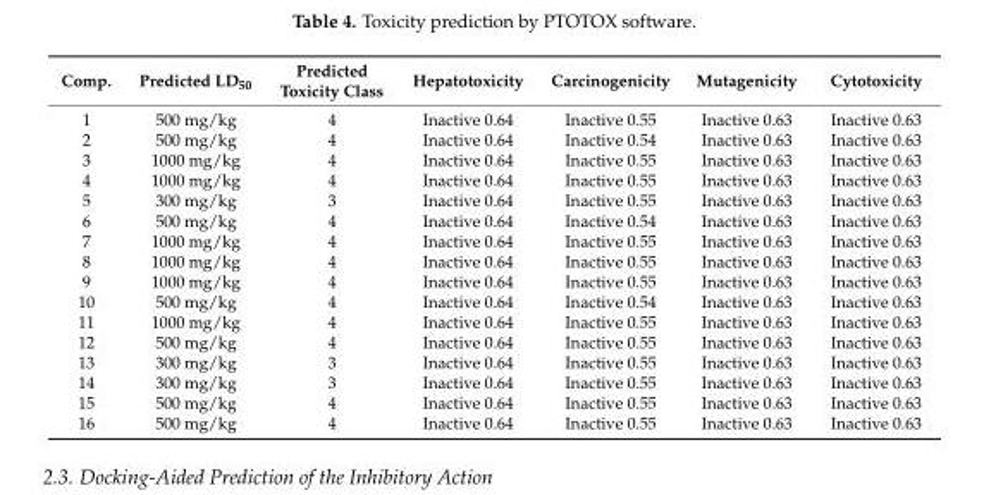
<table><thead><tr><td>Comp.</td><td>Predicted LD50</td><td>Predicted Toxicity Class</td><td>Hepatotoxicity</td><td>Carcinogenicity</td><td>Mutagenicity</td><td>Cytotoxicity</td></tr></thead><tbody><tr><td>1</td><td>500 mg/kg</td><td>4</td><td>Inactive 0.64</td><td>Inactive 0.55</td><td>Inactive 0.63</td><td>Inactive 0.63</td></tr><tr><td>2</td><td>500 mg/kg</td><td>4</td><td>Inactive 0.64</td><td>Inactive 0.54</td><td>Inactive 0.63</td><td>Inactive 0.63</td></tr><tr><td>3</td><td>1000 mg/kg</td><td>4</td><td>Inactive 0.64</td><td>Inactive 0.55</td><td>Inactive 0.63</td><td>Inactive 0.63</td></tr><tr><td>4</td><td>1000 mg/kg</td><td>4</td><td>Inactive 0.64</td><td>Inactive 0.55</td><td>Inactive 0.63</td><td>Inactive 0.63</td></tr><tr><td>5</td><td>300 mg/kg</td><td>3</td><td>Inactive 0.64</td><td>Inactive 0.55</td><td>Inactive 0.63</td><td>Inactive 0.63</td></tr><tr><td>6</td><td>500 mg/kg</td><td>4</td><td>Inactive 0.64</td><td>Inactive 0.54</td><td>Inactive 0.63</td><td>Inactive 0.63</td></tr><tr><td>7</td><td>1000 mg/kg</td><td>4</td><td>Inactive 0.64</td><td>Inactive 0.55</td><td>Inactive 0.63</td><td>Inactive 0.63</td></tr><tr><td>8</td><td>1000 mg/kg</td><td>4</td><td>Inactive 0.64</td><td>Inactive 0.55</td><td>Inactive 0.63</td><td>Inactive 0.63</td></tr><tr><td>9</td><td>1000 mg/kg</td><td>4</td><td>Inactive 0.64</td><td>Inactive 0.55</td><td>Inactive 0.63</td><td>Inactive 0.63</td></tr><tr><td>10</td><td>500 mg/kg</td><td>4</td><td>Inactive 0.64</td><td>Inactive 0.54</td><td>Inactive 0.63</td><td>Inactive 0.63</td></tr><tr><td>11</td><td>1000 mg/kg</td><td>4</td><td>Inactive 0.64</td><td>Inactive 0.55</td><td>Inactive 0.63</td><td>Inactive 0.63</td></tr><tr><td>12</td><td>500 mg/kg</td><td>4</td><td>Inactive 0.64</td><td>Inactive 0.55</td><td>Inactive 0.63</td><td>Inactive 0.63</td></tr><tr><td>13</td><td>300 mg/kg</td><td>3</td><td>Inactive 0.64</td><td>Inactive 0.55</td><td>Inactive 0.63</td><td>Inactive 0.63</td></tr><tr><td>14</td><td>300 mg/kg</td><td>3</td><td>Inactive 0.64</td><td>Inactive 0.55</td><td>Inactive 0.63</td><td>Inactive 0.63</td></tr><tr><td>15</td><td>500 mg/kg</td><td>4</td><td>Inactive 0.64</td><td>Inactive 0.55</td><td>Inactive 0.63</td><td>Inactive 0.63</td></tr><tr><td>16</td><td>500 mg/kg</td><td>4</td><td>Inactive 0.64</td><td>Inactive 0.55</td><td>Inactive 0.63</td><td>Inactive 0.63</td></tr></tbody></table>